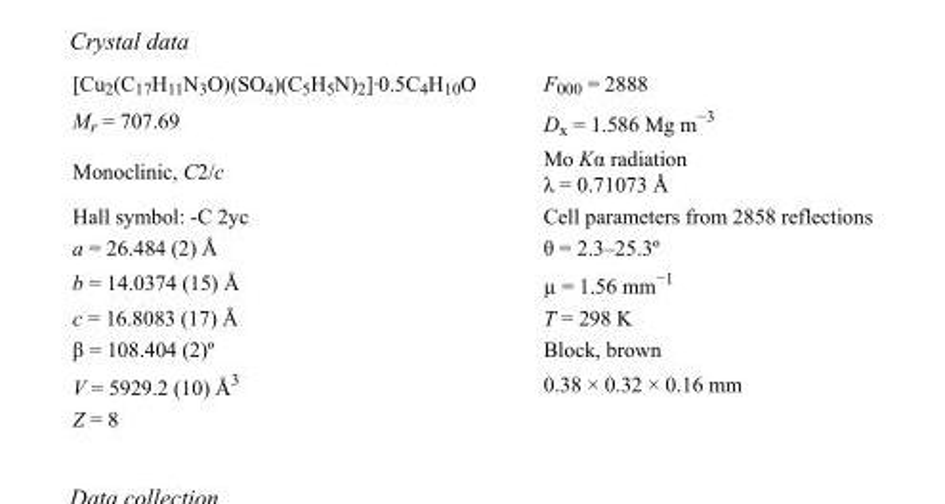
<table><tbody><tr><td>[Cu<sub>2</sub>(C<sub>17</sub>H<sub>11</sub>N<sub>3</sub>O)(SO<sub>4</sub>)(C<sub>5</sub>H<sub>5</sub>N)<sub>2</sub>]·0.5C<sub>4</sub>H<sub>10</sub>O</td><td>F000 = 2888</td></tr><tr><td>M<sub>r</sub> = 707.69</td><td>D<sub>x</sub> = 1.586 Mg m<sup>−3</sup></td></tr><tr><td>Monoclinic, C2/c</td><td>Mo Kα radiation λ = 0.71073 Å</td></tr><tr><td>Hall symbol: -C 2yc</td><td>Cell parameters from 2858 reflections</td></tr><tr><td>a = 26.484 (2) Å</td><td>θ = 2.3–25.3º</td></tr><tr><td>b = 14.0374 (15) Å</td><td>µ = 1.56 mm<sup>−1</sup></td></tr><tr><td>c = 16.8083 (17) Å</td><td>T = 298 K</td></tr><tr><td>β = 108.404 (2)º</td><td>Block, brown</td></tr><tr><td>V = 5929.2 (10) Å<sup>3</sup></td><td>0.38 × 0.32 × 0.16 mm</td></tr><tr><td>Z = 8</td><td></td></tr></tbody></table>